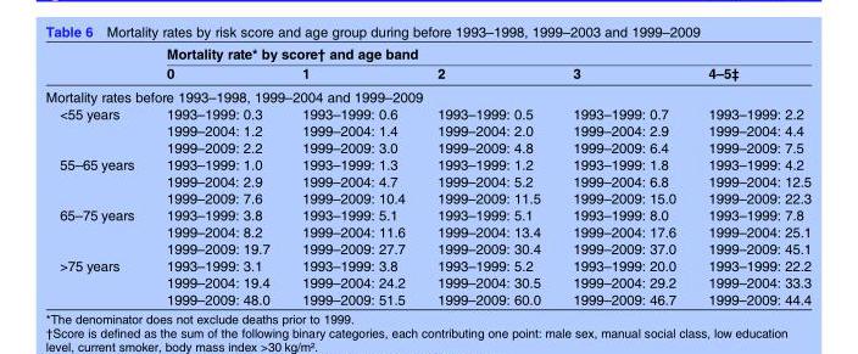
<table><thead><tr><td rowspan="2"></td><td colspan="5">Mortality rate* by score† and age band</td></tr><tr><td>0</td><td>1</td><td>2</td><td>3</td><td>4–5‡</td></tr></thead><tbody><tr><td colspan="6">Mortality rates before 1993–1998, 1999–2004 and 1999–2009</td></tr><tr><td rowspan="3">&lt;55 years</td><td>1993–1999: 0.3</td><td>1993–1999: 0.6</td><td>1993–1999: 0.5</td><td>1993–1999: 0.7</td><td>1993–1999: 2.2</td></tr><tr><td>1999–2004: 1.2</td><td>1999–2004: 1.4</td><td>1999–2004: 2.0</td><td>1999–2004: 2.9</td><td>1999–2004: 4.4</td></tr><tr><td>1999–2009: 2.2</td><td>1999–2009: 3.0</td><td>1999–2009: 4.8</td><td>1999–2009: 6.4</td><td>1999–2009: 7.5</td></tr><tr><td rowspan="3">55–65 years</td><td>1993–1999: 1.0</td><td>1993–1999: 1.3</td><td>1993–1999: 1.2</td><td>1993–1999: 1.8</td><td>1993–1999: 4.2</td></tr><tr><td>1999–2004: 2.9</td><td>1999–2004: 4.7</td><td>1999–2004: 5.2</td><td>1999–2004: 6.8</td><td>1999–2004: 12.5</td></tr><tr><td>1999–2009: 7.6</td><td>1999–2009: 10.4</td><td>1999–2009: 11.5</td><td>1999–2009: 15.0</td><td>1999–2009: 22.3</td></tr><tr><td rowspan="3">65–75 years</td><td>1993–1999: 3.8</td><td>1993–1999: 5.1</td><td>1993–1999: 5.1</td><td>1993–1999: 8.0</td><td>1993–1999: 7.8</td></tr><tr><td>1999–2004: 8.2</td><td>1999–2004: 11.6</td><td>1999–2004: 13.4</td><td>1999–2004: 17.6</td><td>1999–2004: 25.1</td></tr><tr><td>1999–2009: 19.7</td><td>1999–2009: 27.7</td><td>1999–2009: 30.4</td><td>1999–2009: 37.0</td><td>1999–2009: 45.1</td></tr><tr><td rowspan="3">&gt;75 years</td><td>1993–1999: 3.1</td><td>1993–1999: 3.8</td><td>1993–1999: 5.2</td><td>1993–1999: 20.0</td><td>1993–1999: 22.2</td></tr><tr><td>1999–2004: 19.4</td><td>1999–2004: 24.2</td><td>1999–2004: 30.5</td><td>1999–2004: 29.2</td><td>1999–2004: 33.3</td></tr><tr><td>1999–2009: 48.0</td><td>1999–2009: 51.5</td><td>1999–2009: 60.0</td><td>1999–2009: 46.7</td><td>1999–2009: 44.4</td></tr></tbody></table>